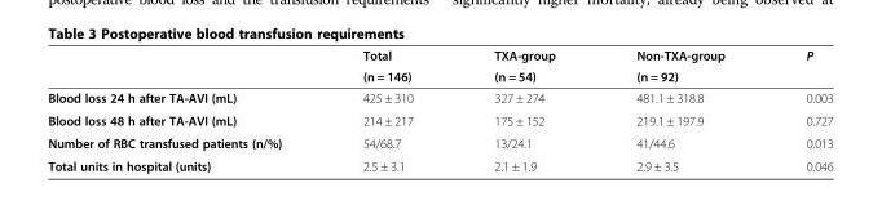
<table><thead><tr><td rowspan="2"></td><td rowspan="2">Total (n = 146)</td><td rowspan="2">TXA-group (n = 54)</td><td rowspan="2">Non-TXA-group (n = 92)</td><td rowspan="2">P</td></tr><tr></tr></thead><tbody><tr><td>Blood loss 24 h after TA-AVI (mL)</td><td>425 ± 310</td><td>327 ± 274</td><td>481.1 ± 318.8</td><td>0.003</td></tr><tr><td>Blood loss 48 h after TA-AVI (mL)</td><td>214 ± 217</td><td>175 ± 152</td><td>219.1 ± 197.9</td><td>0.727</td></tr><tr><td>Number of RBC transfused patients (n/%)</td><td>54/68.7</td><td>13/24.1</td><td>41/44.6</td><td>0.013</td></tr><tr><td>Total units in hospital (units)</td><td>2.5 ± 3.1</td><td>2.1 ± 1.9</td><td>2.9 ± 3.5</td><td>0.046</td></tr></tbody></table>